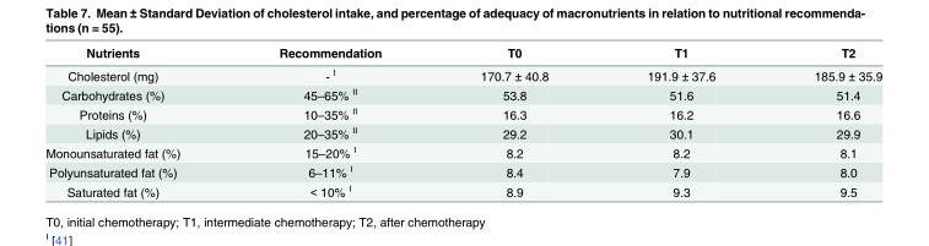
<table><thead><tr><td>Nutrients</td><td>Recommendation</td><td>T0</td><td>T1</td><td>T2</td></tr></thead><tbody><tr><td>Cholesterol (mg)</td><td>- <sup>I</sup></td><td>170.7 ± 40.8</td><td>191.9 ± 37.6</td><td>185.9 ± 35.9</td></tr><tr><td>Carbohydrates (%)</td><td>45–65% <sup>II</sup></td><td>53.8</td><td>51.6</td><td>51.4</td></tr><tr><td>Proteins (%)</td><td>10–35% <sup>II</sup></td><td>16.3</td><td>16.2</td><td>16.6</td></tr><tr><td>Lipids (%)</td><td>20–35% <sup>II</sup></td><td>29.2</td><td>30.1</td><td>29.9</td></tr><tr><td>Monounsaturated fat (%)</td><td>15–20% <sup>I</sup></td><td>8.2</td><td>8.2</td><td>8.1</td></tr><tr><td>Polyunsaturated fat (%)</td><td>6–11% <sup>I</sup></td><td>8.4</td><td>7.9</td><td>8.0</td></tr><tr><td>Saturated fat (%)</td><td>&lt; 10% <sup>I</sup></td><td>8.9</td><td>9.3</td><td>9.5</td></tr></tbody></table>